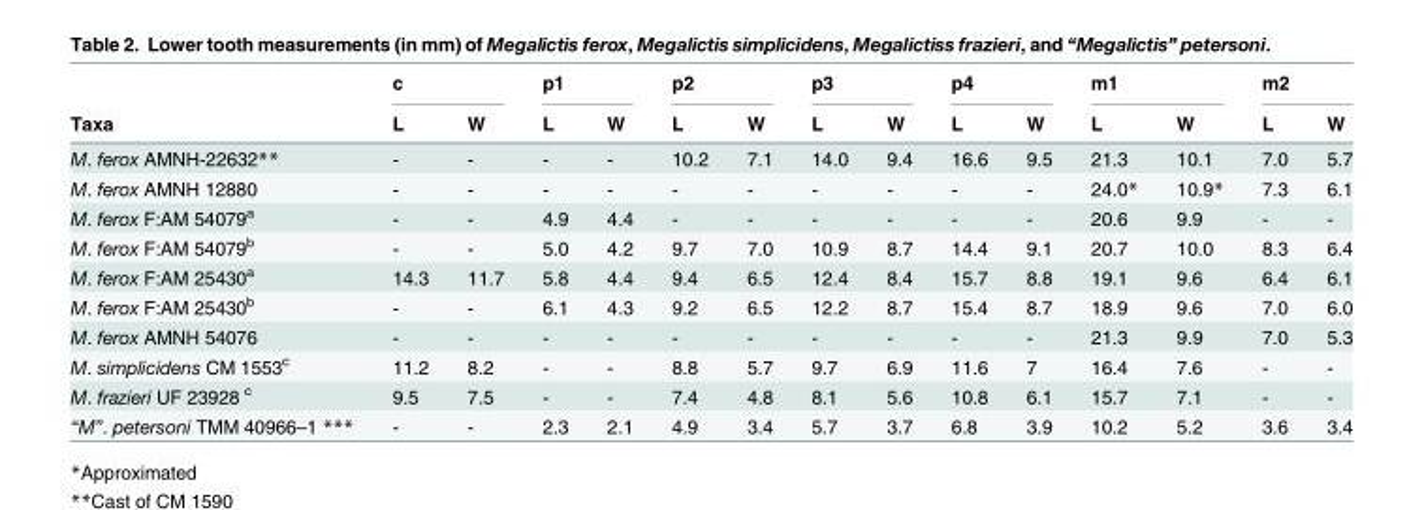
<table><thead><tr><td rowspan="2">Taxa</td><td colspan="2">c</td><td colspan="2">p1</td><td colspan="2">p2</td><td colspan="2">p3</td><td colspan="2">p4</td><td colspan="2">m1</td><td colspan="2">m2</td></tr><tr><td>L</td><td>W</td><td>L</td><td>W</td><td>L</td><td>W</td><td>L</td><td>W</td><td>L</td><td>W</td><td>L</td><td>W</td><td>L</td><td>W</td></tr></thead><tbody><tr><td>M. ferox AMNH-22632**</td><td>-</td><td>-</td><td>-</td><td>-</td><td>10.2</td><td>7.1</td><td>14.0</td><td>9.4</td><td>16.6</td><td>9.5</td><td>21.3</td><td>10.1</td><td>7.0</td><td>5.7</td></tr><tr><td>M. ferox AMNH 12880</td><td>-</td><td>-</td><td>-</td><td>-</td><td>-</td><td>-</td><td>-</td><td>-</td><td>-</td><td>-</td><td>24.0*</td><td>10.9*</td><td>7.3</td><td>6.1</td></tr><tr><td>M. ferox F:AM 54079<sup>a</sup></td><td>-</td><td>-</td><td>4.9</td><td>4.4</td><td>-</td><td>-</td><td>-</td><td>-</td><td>-</td><td>-</td><td>20.6</td><td>9.9</td><td>-</td><td>-</td></tr><tr><td>M. ferox F:AM 54079<sup>b</sup></td><td>-</td><td>-</td><td>5.0</td><td>4.2</td><td>9.7</td><td>7.0</td><td>10.9</td><td>8.7</td><td>14.4</td><td>9.1</td><td>20.7</td><td>10.0</td><td>8.3</td><td>6.4</td></tr><tr><td>M. ferox F:AM 25430<sup>a</sup></td><td>14.3</td><td>11.7</td><td>5.8</td><td>4.4</td><td>9.4</td><td>6.5</td><td>12.4</td><td>8.4</td><td>15.7</td><td>8.8</td><td>19.1</td><td>9.6</td><td>6.4</td><td>6.1</td></tr><tr><td>M. ferox F:AM 25430<sup>b</sup></td><td>-</td><td>-</td><td>6.1</td><td>4.3</td><td>9.2</td><td>6.5</td><td>12.2</td><td>8.7</td><td>15.4</td><td>8.7</td><td>18.9</td><td>9.6</td><td>7.0</td><td>6.0</td></tr><tr><td>M. ferox AMNH 54076</td><td>-</td><td>-</td><td>-</td><td>-</td><td>-</td><td>-</td><td>-</td><td>-</td><td>-</td><td>-</td><td>21.3</td><td>9.9</td><td>7.0</td><td>5.3</td></tr><tr><td>M. simplicidens CM 1553<sup>c</sup></td><td>11.2</td><td>8.2</td><td>-</td><td>-</td><td>8.8</td><td>5.7</td><td>9.7</td><td>6.9</td><td>11.6</td><td>7</td><td>16.4</td><td>7.6</td><td>-</td><td>-</td></tr><tr><td>M. frazieri UF 23928 <sup>c</sup></td><td>9.5</td><td>7.5</td><td>-</td><td>-</td><td>7.4</td><td>4.8</td><td>8.1</td><td>5.6</td><td>10.8</td><td>6.1</td><td>15.7</td><td>7.1</td><td>-</td><td>-</td></tr><tr><td>“M”. petersoni TMM 40966–1 ***</td><td>-</td><td>-</td><td>2.3</td><td>2.1</td><td>4.9</td><td>3.4</td><td>5.7</td><td>3.7</td><td>6.8</td><td>3.9</td><td>10.2</td><td>5.2</td><td>3.6</td><td>3.4</td></tr></tbody></table>